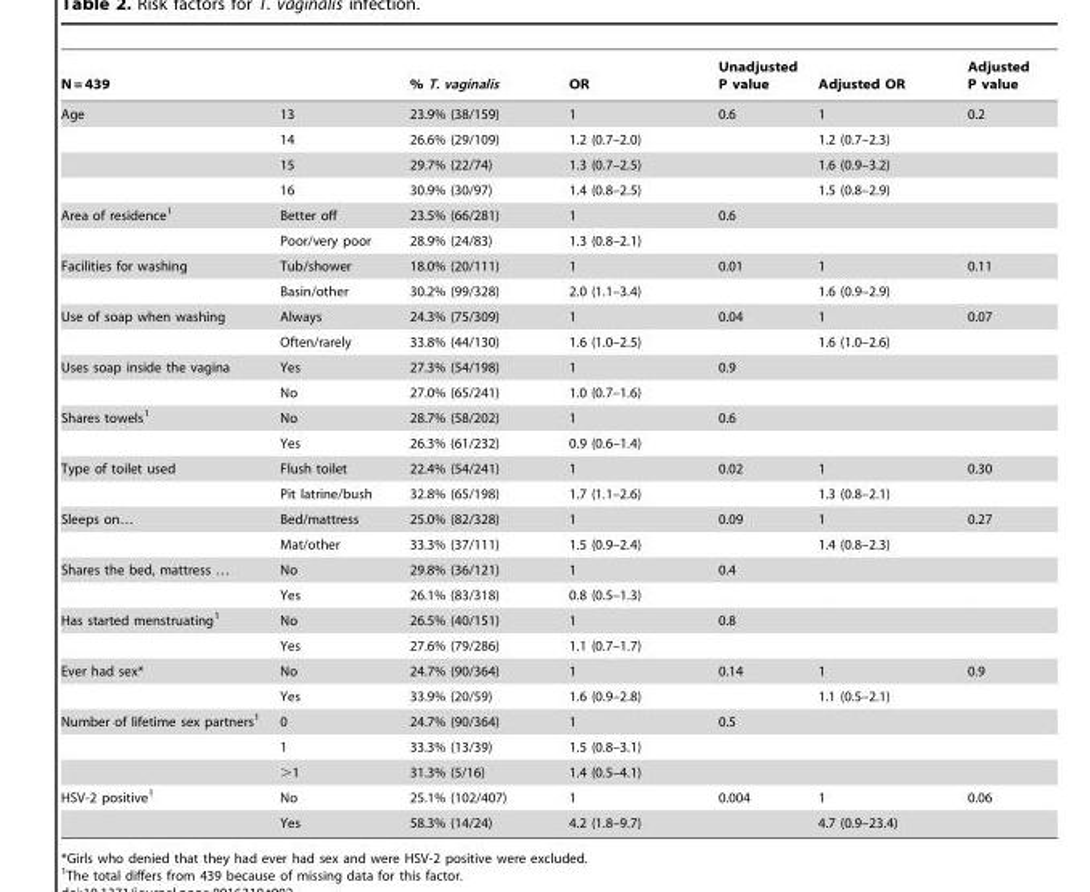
<table><thead><tr><td>N = 439</td><td></td><td>% T. vaginalis</td><td>OR</td><td>Unadjusted P value</td><td>Adjusted OR</td><td>Adjusted P value</td></tr></thead><tbody><tr><td rowspan="4">Age</td><td>13</td><td>23.9% (38/159)</td><td>1</td><td>0.6</td><td>1</td><td>0.2</td></tr><tr><td>14</td><td>26.6% (29/109)</td><td>1.2 (0.7–2.0)</td><td></td><td>1.2 (0.7–2.3)</td><td></td></tr><tr><td>15</td><td>29.7% (22/74)</td><td>1.3 (0.7–2.5)</td><td></td><td>1.6 (0.9–3.2)</td><td></td></tr><tr><td>16</td><td>30.9% (30/97)</td><td>1.4 (0.8–2.5)</td><td></td><td>1.5 (0.8–2.9)</td><td></td></tr><tr><td rowspan="2">Area of residence<sup>1</sup></td><td>Better off</td><td>23.5% (66/281)</td><td>1</td><td>0.6</td><td></td><td></td></tr><tr><td>Poor/very poor</td><td>28.9% (24/83)</td><td>1.3 (0.8–2.1)</td><td></td><td></td><td></td></tr><tr><td rowspan="2">Facilities for washing</td><td>Tub/shower</td><td>18.0% (20/111)</td><td>1</td><td>0.01</td><td>1</td><td>0.11</td></tr><tr><td>Basin/other</td><td>30.2% (99/328)</td><td>2.0 (1.1–3.4)</td><td></td><td>1.6 (0.9–2.9)</td><td></td></tr><tr><td rowspan="2">Use of soap when washing</td><td>Always</td><td>24.3% (75/309)</td><td>1</td><td>0.04</td><td>1</td><td>0.07</td></tr><tr><td>Often/rarely</td><td>33.8% (44/130)</td><td>1.6 (1.0–2.5)</td><td></td><td>1.6 (1.0–2.6)</td><td></td></tr><tr><td rowspan="2">Uses soap inside the vagina</td><td>Yes</td><td>27.3% (54/198)</td><td>1</td><td>0.9</td><td></td><td></td></tr><tr><td>No</td><td>27.0% (65/241)</td><td>1.0 (0.7–1.6)</td><td></td><td></td><td></td></tr><tr><td rowspan="2">Shares towels<sup>1</sup></td><td>No</td><td>28.7% (58/202)</td><td>1</td><td>0.6</td><td></td><td></td></tr><tr><td>Yes</td><td>26.3% (61/232)</td><td>0.9 (0.6–1.4)</td><td></td><td></td><td></td></tr><tr><td rowspan="2">Type of toilet used</td><td>Flush toilet</td><td>22.4% (54/241)</td><td>1</td><td>0.02</td><td>1</td><td>0.30</td></tr><tr><td>Pit latrine/bush</td><td>32.8% (65/198)</td><td>1.7 (1.1–2.6)</td><td></td><td>1.3 (0.8–2.1)</td><td></td></tr><tr><td rowspan="2">Sleeps on…</td><td>Bed/mattress</td><td>25.0% (82/328)</td><td>1</td><td>0.09</td><td>1</td><td>0.27</td></tr><tr><td>Mat/other</td><td>33.3% (37/111)</td><td>1.5 (0.9–2.4)</td><td></td><td>1.4 (0.8–2.3)</td><td></td></tr><tr><td rowspan="2">Shares the bed, mattress …</td><td>No</td><td>29.8% (36/121)</td><td>1</td><td>0.4</td><td></td><td></td></tr><tr><td>Yes</td><td>26.1% (83/318)</td><td>0.8 (0.5–1.3)</td><td></td><td></td><td></td></tr><tr><td rowspan="2">Has started menstruating<sup>1</sup></td><td>No</td><td>26.5% (40/151)</td><td>1</td><td>0.8</td><td></td><td></td></tr><tr><td>Yes</td><td>27.6% (79/286)</td><td>1.1 (0.7–1.7)</td><td></td><td></td><td></td></tr><tr><td rowspan="2">Ever had sex*</td><td>No</td><td>24.7% (90/364)</td><td>1</td><td>0.14</td><td>1</td><td>0.9</td></tr><tr><td>Yes</td><td>33.9% (20/59)</td><td>1.6 (0.9–2.8)</td><td></td><td>1.1 (0.5–2.1)</td><td></td></tr><tr><td rowspan="3">Number of lifetime sex partners<sup>1</sup></td><td>0</td><td>24.7% (90/364)</td><td>1</td><td>0.5</td><td></td><td></td></tr><tr><td>1</td><td>33.3% (13/39)</td><td>1.5 (0.8–3.1)</td><td></td><td></td><td></td></tr><tr><td>&gt;1</td><td>31.3% (5/16)</td><td>1.4 (0.5–4.1)</td><td></td><td></td><td></td></tr><tr><td rowspan="2">HSV-2 positive<sup>1</sup></td><td>No</td><td>25.1% (102/407)</td><td>1</td><td>0.004</td><td>1</td><td>0.06</td></tr><tr><td>Yes</td><td>58.3% (14/24)</td><td>4.2 (1.8–9.7)</td><td></td><td>4.7 (0.9–23.4)</td><td></td></tr></tbody></table>